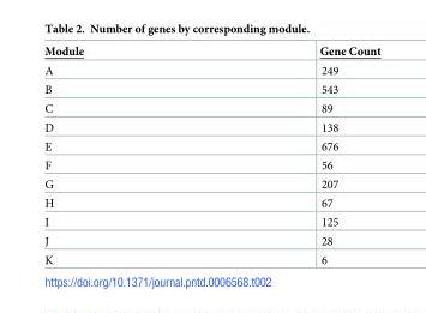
<table><thead><tr><td>Module</td><td>Gene Count</td></tr></thead><tbody><tr><td>A</td><td>249</td></tr><tr><td>B</td><td>543</td></tr><tr><td>C</td><td>89</td></tr><tr><td>D</td><td>138</td></tr><tr><td>E</td><td>676</td></tr><tr><td>F</td><td>56</td></tr><tr><td>G</td><td>207</td></tr><tr><td>H</td><td>67</td></tr><tr><td>I</td><td>125</td></tr><tr><td>J</td><td>28</td></tr><tr><td>K</td><td>6</td></tr></tbody></table>